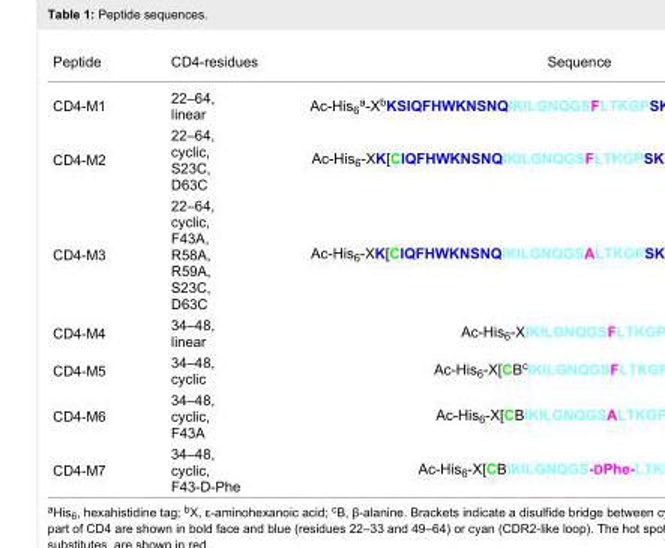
<table><tbody><tr><td>Peptide</td><td>CD4-residues</td><td>Sequence</td></tr><tr><td>CD4-M1</td><td>22–64, linear</td><td></td></tr><tr><td>CD4-M2</td><td>22–64, cyclic, S23C, D63C</td><td></td></tr><tr><td>CD4-M3</td><td>22–64, cyclic, F43A, R58A, R59A, S23C, D63C</td><td></td></tr><tr><td>CD4-M4</td><td>34–48, linear</td><td></td></tr><tr><td>CD4-M5</td><td>34–48, cyclic</td><td></td></tr><tr><td>CD4-M6</td><td>34–48, cyclic, F43A</td><td></td></tr><tr><td>CD4-M7</td><td>34–48, cyclic, F43-D-Phe</td><td></td></tr></tbody></table>